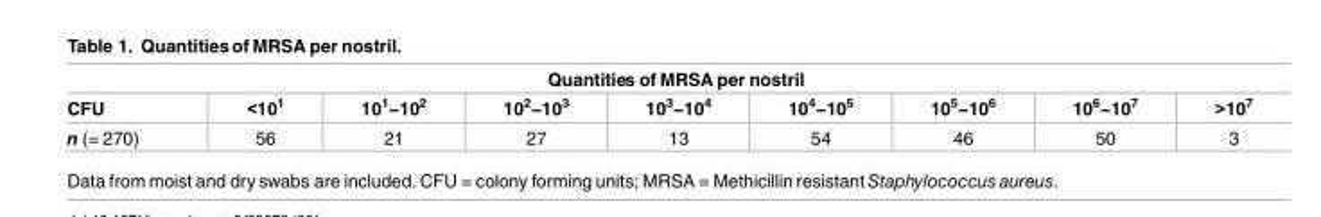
<table><thead><tr><td colspan="9">Quantities of MRSA per nostril</td></tr><tr><td>CFU</td><td>&lt;10<sup>1</sup></td><td>10<sup>1</sup>−10<sup>2</sup></td><td>10<sup>2</sup>−10<sup>3</sup></td><td>10<sup>3</sup>−10<sup>4</sup></td><td>10<sup>4</sup>−10<sup>5</sup></td><td>10<sup>5</sup>−10<sup>6</sup></td><td>10<sup>6</sup>−10<sup>7</sup></td><td>&gt;10<sup>7</sup></td></tr></thead><tbody><tr><td>n (= 270)</td><td>56</td><td>21</td><td>27</td><td>13</td><td>54</td><td>46</td><td>50</td><td>3</td></tr></tbody></table>